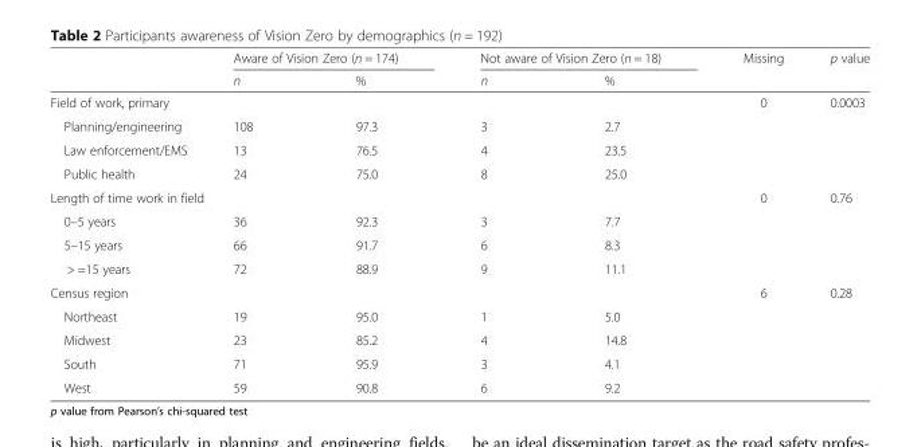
<table><thead><tr><td rowspan="2"></td><td colspan="2">Aware of Vision Zero (n = 174)</td><td colspan="2">Not aware of Vision Zero (n = 18)</td><td rowspan="2">Missing</td><td rowspan="2">p value</td></tr><tr><td>n</td><td>%</td><td>n</td><td>%</td></tr></thead><tbody><tr><td colspan="5">Field of work, primary</td><td>0</td><td>0.0003</td></tr><tr><td>Planning/engineering</td><td>108</td><td>97.3</td><td>3</td><td>2.7</td><td rowspan="3" colspan="2"></td></tr><tr><td>Law enforcement/EMS</td><td>13</td><td>76.5</td><td>4</td><td>23.5</td></tr><tr><td>Public health</td><td>24</td><td>75.0</td><td>8</td><td>25.0</td></tr><tr><td colspan="5">Length of time work in field</td><td>0</td><td>0.76</td></tr><tr><td>0–5 years</td><td>36</td><td>92.3</td><td>3</td><td>7.7</td><td rowspan="3" colspan="2"></td></tr><tr><td>5–15 years</td><td>66</td><td>91.7</td><td>6</td><td>8.3</td></tr><tr><td>&gt; =15 years</td><td>72</td><td>88.9</td><td>9</td><td>11.1</td></tr><tr><td colspan="5">Census region</td><td>6</td><td>0.28</td></tr><tr><td>Northeast</td><td>19</td><td>95.0</td><td>1</td><td>5.0</td><td rowspan="4" colspan="2"></td></tr><tr><td>Midwest</td><td>23</td><td>85.2</td><td>4</td><td>14.8</td></tr><tr><td>South</td><td>71</td><td>95.9</td><td>3</td><td>4.1</td></tr><tr><td>West</td><td>59</td><td>90.8</td><td>6</td><td>9.2</td></tr></tbody></table>